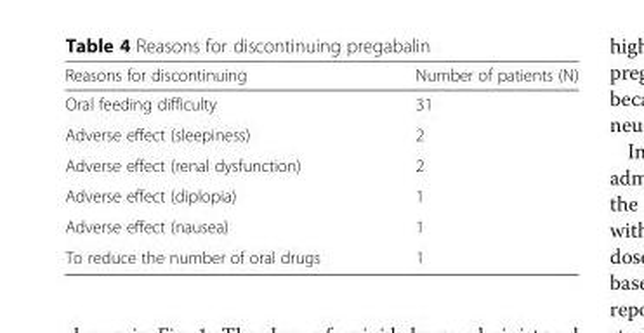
<table><thead><tr><td>Reasons for discontinuing</td><td>Number of patients (N)</td></tr></thead><tbody><tr><td>Oral feeding difficulty</td><td>31</td></tr><tr><td>Adverse effect (sleepiness)</td><td>2</td></tr><tr><td>Adverse effect (renal dysfunction)</td><td>2</td></tr><tr><td>Adverse effect (diplopia)</td><td>1</td></tr><tr><td>Adverse effect (nausea)</td><td>1</td></tr><tr><td>To reduce the number of oral drugs</td><td>1</td></tr></tbody></table>